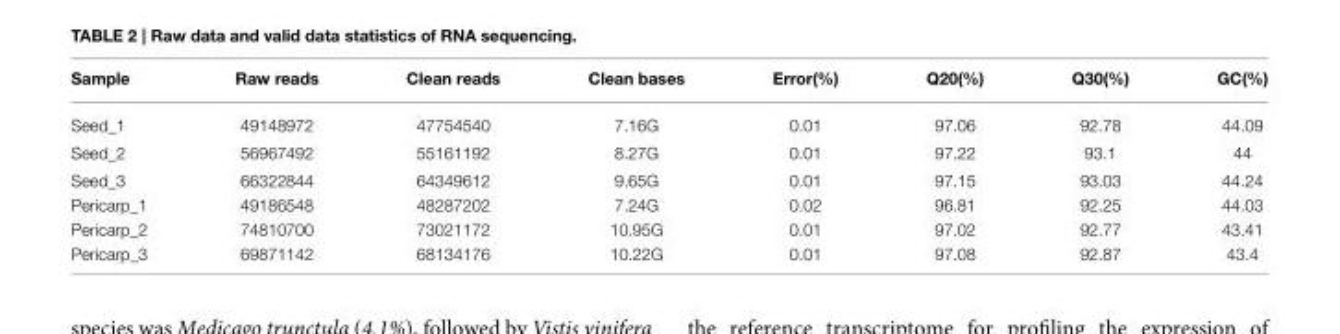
<table><thead><tr><td>Sample</td><td>Raw reads</td><td>Clean reads</td><td>Clean bases</td><td>Error(%)</td><td>Q20(%)</td><td>Q30(%)</td><td>GC(%)</td></tr></thead><tbody><tr><td>Seed_1</td><td>49148972</td><td>47754540</td><td>7.16G</td><td>0.01</td><td>97.06</td><td>92.78</td><td>44.09</td></tr><tr><td>Seed_2</td><td>56967492</td><td>55161192</td><td>8.27G</td><td>0.01</td><td>97.22</td><td>93.1</td><td>44</td></tr><tr><td>Seed_3</td><td>66322844</td><td>64349612</td><td>9.65G</td><td>0.01</td><td>97.15</td><td>93.03</td><td>44.24</td></tr><tr><td>Pericarp_1</td><td>49186548</td><td>48287202</td><td>7.24G</td><td>0.02</td><td>96.81</td><td>92.25</td><td>44.03</td></tr><tr><td>Pericarp_2</td><td>74810700</td><td>73021172</td><td>10.95G</td><td>0.01</td><td>97.02</td><td>92.77</td><td>43.41</td></tr><tr><td>Pericarp_3</td><td>69871142</td><td>68134176</td><td>10.22G</td><td>0.01</td><td>97.08</td><td>92.87</td><td>43.4</td></tr></tbody></table>